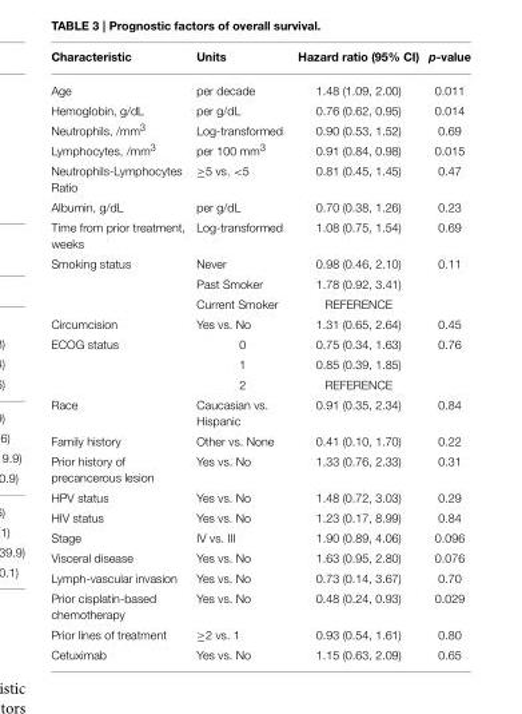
<table><thead><tr><td>Characteristic</td><td>Units</td><td>Hazard ratio (95% CI)</td><td>p-value</td></tr></thead><tbody><tr><td>Age</td><td>per decade</td><td>1.48 (1.09, 2.00)</td><td>0.011</td></tr><tr><td>Hemoglobin, g/dL</td><td>per g/dL</td><td>0.76 (0.62, 0.95)</td><td>0.014</td></tr><tr><td>Neutrophils, /mm<sup>3</sup></td><td>Log-transformed</td><td>0.90 (0.53, 1.52)</td><td>0.69</td></tr><tr><td>Lymphocytes, /mm<sup>3</sup></td><td>per 100 mm<sup>3</sup></td><td>0.91 (0.84, 0.98)</td><td>0.015</td></tr><tr><td>Neutrophils-Lymphocytes Ratio</td><td>≥5 vs. &lt;5</td><td>0.81 (0.45, 1.45)</td><td>0.47</td></tr><tr><td>Albumin, g/dL</td><td>per g/dL</td><td>0.70 (0.38, 1.26)</td><td>0.23</td></tr><tr><td>Time from prior treatment, weeks</td><td>Log-transformed</td><td>1.08 (0.75, 1.54)</td><td>0.69</td></tr><tr><td rowspan="3">Smoking status</td><td>Never</td><td>0.98 (0.46, 2.10)</td><td>0.11</td></tr><tr><td>Past Smoker</td><td>1.78 (0.92, 3.41)</td><td></td></tr><tr><td>Current Smoker</td><td>REFERENCE</td><td></td></tr><tr><td>Circumcision</td><td>Yes vs. No</td><td>1.31 (0.65, 2.64)</td><td>0.45</td></tr><tr><td rowspan="3">ECOG status</td><td>0</td><td>0.75 (0.34, 1.63)</td><td>0.76</td></tr><tr><td>1</td><td>0.85 (0.39, 1.85)</td><td></td></tr><tr><td>2</td><td>REFERENCE</td><td></td></tr><tr><td>Race</td><td>Caucasian vs. Hispanic</td><td>0.91 (0.35, 2.34)</td><td>0.84</td></tr><tr><td>Family history</td><td>Other vs. None</td><td>0.41 (0.10, 1.70)</td><td>0.22</td></tr><tr><td>Prior history of precancerous lesion</td><td>Yes vs. No</td><td>1.33 (0.76, 2.33)</td><td>0.31</td></tr><tr><td>HPV status</td><td>Yes vs. No</td><td>1.48 (0.72, 3.03)</td><td>0.29</td></tr><tr><td>HIV status</td><td>Yes vs. No</td><td>1.23 (0.17, 8.99)</td><td>0.84</td></tr><tr><td>Stage</td><td>IV vs. III</td><td>1.90 (0.89, 4.06)</td><td>0.096</td></tr><tr><td>Visceral disease</td><td>Yes vs. No</td><td>1.63 (0.95, 2.80)</td><td>0.076</td></tr><tr><td>Lymph-vascular invasion</td><td>Yes vs. No</td><td>0.73 (0.14, 3.67)</td><td>0.70</td></tr><tr><td>Prior cisplatin-based chemotherapy</td><td>Yes vs. No</td><td>0.48 (0.24, 0.93)</td><td>0.029</td></tr><tr><td>Prior lines of treatment</td><td>≥2 vs. 1</td><td>0.93 (0.54, 1.61)</td><td>0.80</td></tr><tr><td>Cetuximab</td><td>Yes vs. No</td><td>1.15 (0.63, 2.09)</td><td>0.65</td></tr></tbody></table>